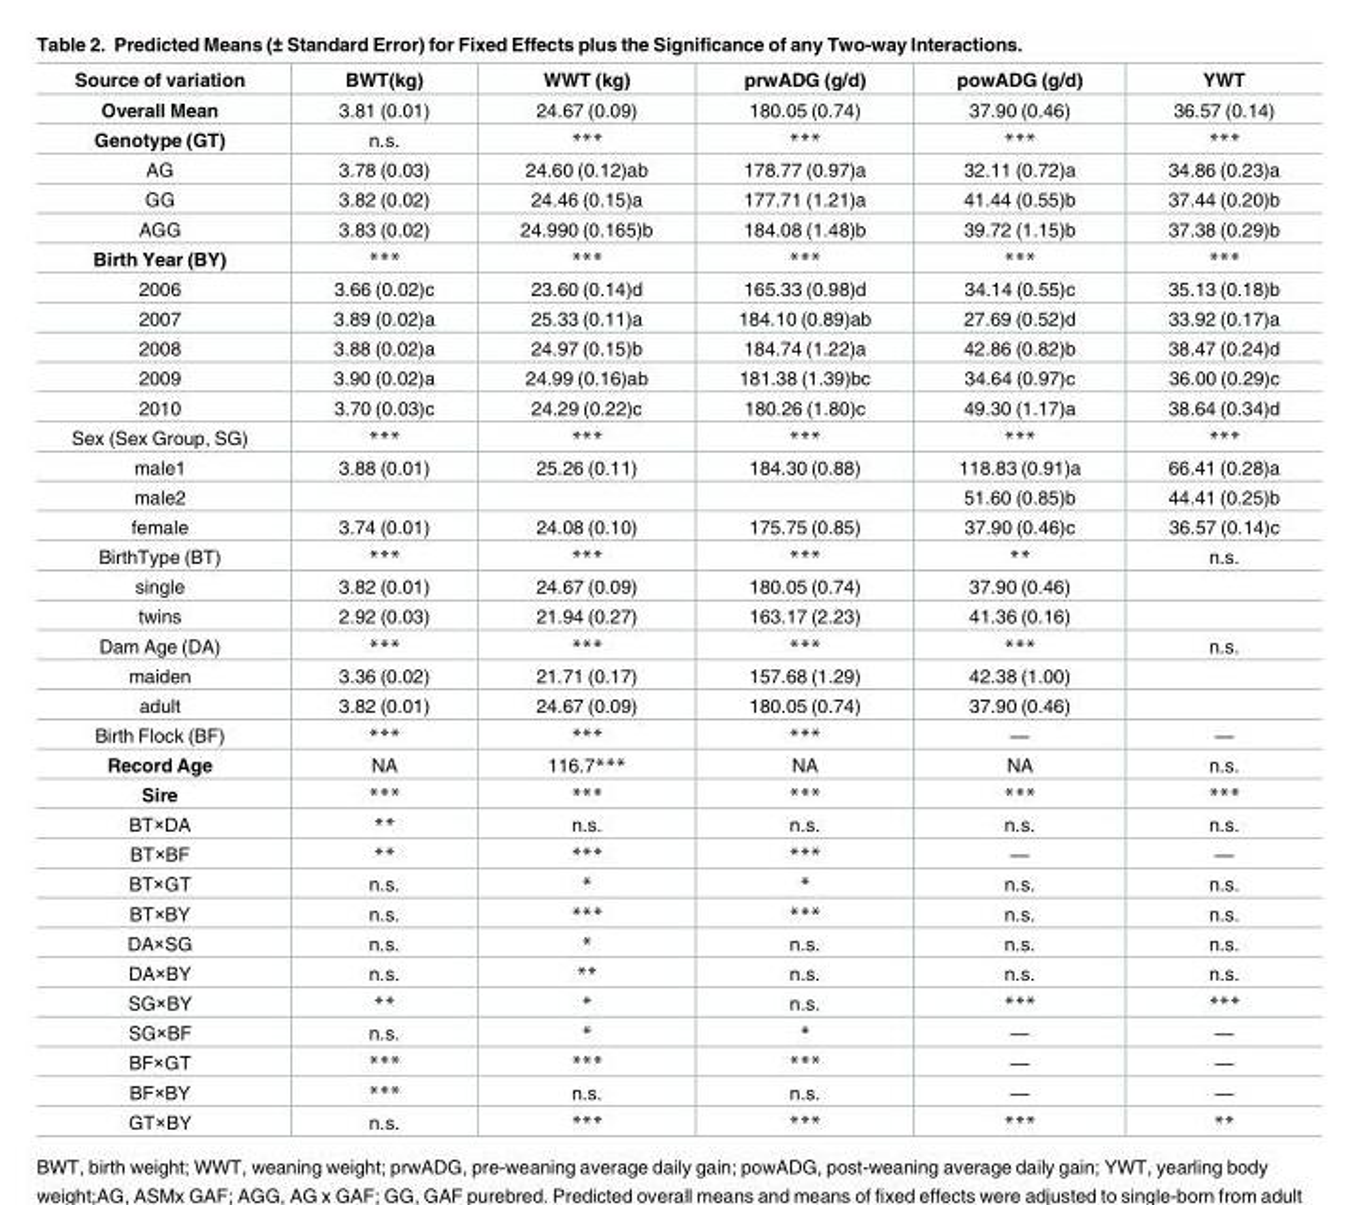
<table><thead><tr><td>Source of variation</td><td>BWT(kg)</td><td>WWT (kg)</td><td>prwADG (g/d)</td><td>powADG (g/d)</td><td>YWT</td></tr></thead><tbody><tr><td>Overall Mean</td><td>3.81 (0.01)</td><td>24.67 (0.09)</td><td>180.05 (0.74)</td><td>37.90 (0.46)</td><td>36.57 (0.14)</td></tr><tr><td>Genotype (GT)</td><td>n.s.</td><td>***</td><td>***</td><td>***</td><td>***</td></tr><tr><td>AG</td><td>3.78 (0.03)</td><td>24.60 (0.12)ab</td><td>178.77 (0.97)a</td><td>32.11 (0.72)a</td><td>34.86 (0.23)a</td></tr><tr><td>GG</td><td>3.82 (0.02)</td><td>24.46 (0.15)a</td><td>177.71 (1.21)a</td><td>41.44 (0.55)b</td><td>37.44 (0.20)b</td></tr><tr><td>AGG</td><td>3.83 (0.02)</td><td>24.990 (0.165)b</td><td>184.08 (1.48)b</td><td>39.72 (1.15)b</td><td>37.38 (0.29)b</td></tr><tr><td>Birth Year (BY)</td><td>***</td><td>***</td><td>***</td><td>***</td><td>***</td></tr><tr><td>2006</td><td>3.66 (0.02)c</td><td>23.60 (0.14)d</td><td>165.33 (0.98)d</td><td>34.14 (0.55)c</td><td>35.13 (0.18)b</td></tr><tr><td>2007</td><td>3.89 (0.02)a</td><td>25.33 (0.11)a</td><td>184.10 (0.89)ab</td><td>27.69 (0.52)d</td><td>33.92 (0.17)a</td></tr><tr><td>2008</td><td>3.88 (0.02)a</td><td>24.97 (0.15)b</td><td>184.74 (1.22)a</td><td>42.86 (0.82)b</td><td>38.47 (0.24)d</td></tr><tr><td>2009</td><td>3.90 (0.02)a</td><td>24.99 (0.16)ab</td><td>181.38 (1.39)bc</td><td>34.64 (0.97)c</td><td>36.00 (0.29)c</td></tr><tr><td>2010</td><td>3.70 (0.03)c</td><td>24.29 (0.22)c</td><td>180.26 (1.80)c</td><td>49.30 (1.17)a</td><td>38.64 (0.34)d</td></tr><tr><td>Sex (Sex Group, SG)</td><td>***</td><td>***</td><td>***</td><td>***</td><td>***</td></tr><tr><td>male1</td><td>3.88 (0.01)</td><td>25.26 (0.11)</td><td>184.30 (0.88)</td><td>118.83 (0.91)a</td><td>66.41 (0.28)a</td></tr><tr><td>male2</td><td></td><td></td><td></td><td>51.60 (0.85)b</td><td>44.41 (0.25)b</td></tr><tr><td>female</td><td>3.74 (0.01)</td><td>24.08 (0.10)</td><td>175.75 (0.85)</td><td>37.90 (0.46)c</td><td>36.57 (0.14)c</td></tr><tr><td>BirthType (BT)</td><td>***</td><td>***</td><td>***</td><td>**</td><td>n.s.</td></tr><tr><td>single</td><td>3.82 (0.01)</td><td>24.67 (0.09)</td><td>180.05 (0.74)</td><td>37.90 (0.46)</td><td></td></tr><tr><td>twins</td><td>2.92 (0.03)</td><td>21.94 (0.27)</td><td>163.17 (2.23)</td><td>41.36 (0.16)</td><td></td></tr><tr><td>Dam Age (DA)</td><td>***</td><td>***</td><td>***</td><td>***</td><td>n.s.</td></tr><tr><td>maiden</td><td>3.36 (0.02)</td><td>21.71 (0.17)</td><td>157.68 (1.29)</td><td>42.38 (1.00)</td><td></td></tr><tr><td>adult</td><td>3.82 (0.01)</td><td>24.67 (0.09)</td><td>180.05 (0.74)</td><td>37.90 (0.46)</td><td></td></tr><tr><td>Birth Flock (BF)</td><td>***</td><td>***</td><td>***</td><td>—</td><td>—</td></tr><tr><td>Record Age</td><td>NA</td><td>116.7***</td><td>NA</td><td>NA</td><td>n.s.</td></tr><tr><td>Sire</td><td>***</td><td>***</td><td>***</td><td>***</td><td>***</td></tr><tr><td>BT×DA</td><td>**</td><td>n.s.</td><td>n.s.</td><td>n.s.</td><td>n.s.</td></tr><tr><td>BT×BF</td><td>**</td><td>***</td><td>***</td><td>—</td><td>—</td></tr><tr><td>BT×GT</td><td>n.s.</td><td>*</td><td>*</td><td>n.s.</td><td>n.s.</td></tr><tr><td>BT×BY</td><td>n.s.</td><td>***</td><td>***</td><td>n.s.</td><td>n.s.</td></tr><tr><td>DA×SG</td><td>n.s.</td><td>*</td><td>n.s.</td><td>n.s.</td><td>n.s.</td></tr><tr><td>DA×BY</td><td>n.s.</td><td>**</td><td>n.s.</td><td>n.s.</td><td>n.s.</td></tr><tr><td>SG×BY</td><td>**</td><td>*</td><td>n.s.</td><td>***</td><td>***</td></tr><tr><td>SG×BF</td><td>n.s.</td><td>*</td><td>*</td><td>—</td><td>—</td></tr><tr><td>BF×GT</td><td>***</td><td>***</td><td>***</td><td>—</td><td>—</td></tr><tr><td>BF×BY</td><td>***</td><td>n.s.</td><td>n.s.</td><td>—</td><td>—</td></tr><tr><td>GT×BY</td><td>n.s.</td><td>***</td><td>***</td><td>***</td><td>**</td></tr></tbody></table>